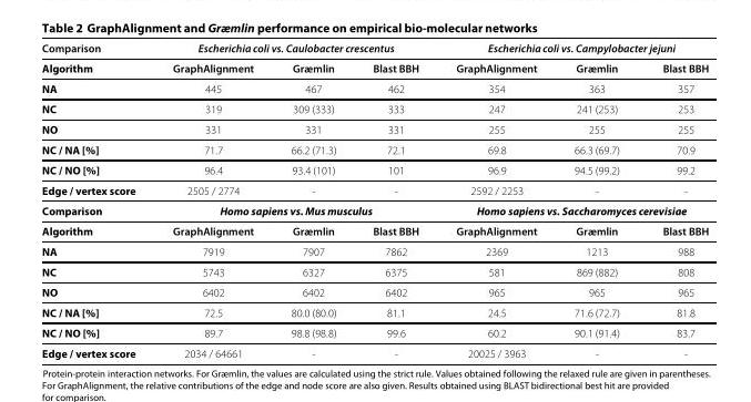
<table><thead><tr><td rowspan="2">Comparison Algorithm</td><td colspan="3">Escherichiacoli vs. Caulobacter crescentus</td><td colspan="3">Escherichia coli vs. Campylobacter jejuni</td></tr><tr><td>GraphAlignment</td><td>Græmlin</td><td>Blast BBH</td><td>GraphAlignment</td><td>Græmlin</td><td>Blast BBH</td></tr></thead><tbody><tr><td>NA</td><td>445</td><td>467</td><td>462</td><td>354</td><td>363</td><td>357</td></tr><tr><td>NC</td><td>319</td><td>309 (333)</td><td>333</td><td>247</td><td>241 (253)</td><td>253</td></tr><tr><td>NO</td><td>331</td><td>331</td><td>331</td><td>255</td><td>255</td><td>255</td></tr><tr><td>NC / NA [%]</td><td>71.7</td><td>66.2 (71.3)</td><td>72.1</td><td>69.8</td><td>66.3 (69.7)</td><td>70.9</td></tr><tr><td>NC / NO [%]</td><td>96.4</td><td>93.4 (101)</td><td>101</td><td>96.9</td><td>94.5 (99.2)</td><td>99.2</td></tr><tr><td>Edge / vertex score</td><td>2505 / 2774</td><td>-</td><td>-</td><td>2592 / 2253</td><td>-</td><td>-</td></tr><tr><td>Comparison</td><td colspan="3">Homo sapiens vs. Mus musculus</td><td colspan="3">Homo sapiens vs. Saccharomyces cerevisiae</td></tr><tr><td>Algorithm</td><td>GraphAlignment</td><td>Græmlin</td><td>Blast BBH</td><td>GraphAlignment</td><td>Græmlin</td><td>Blast BBH</td></tr><tr><td>NA</td><td>7919</td><td>7907</td><td>7862</td><td>2369</td><td>1213</td><td>988</td></tr><tr><td>NC</td><td>5743</td><td>6327</td><td>6375</td><td>581</td><td>869 (882)</td><td>808</td></tr><tr><td>NO</td><td>6402</td><td>6402</td><td>6402</td><td>965</td><td>965</td><td>965</td></tr><tr><td>NC / NA [%]</td><td>72.5</td><td>80.0 (80.0)</td><td>81.1</td><td>24.5</td><td>71.6 (72.7)</td><td>81.8</td></tr><tr><td>NC / NO [%]</td><td>89.7</td><td>98.8 (98.8)</td><td>99.6</td><td>60.2</td><td>90.1 (91.4)</td><td>83.7</td></tr><tr><td>Edge / vertex score</td><td>2034 / 64661</td><td>-</td><td>-</td><td>20025 / 3963</td><td>-</td><td>-</td></tr></tbody></table>